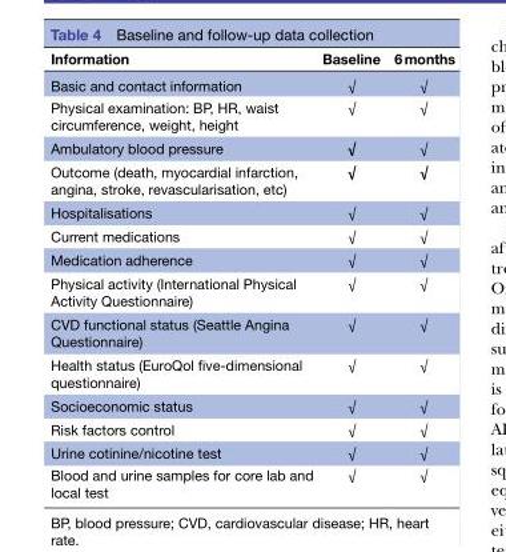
<table><thead><tr><td>Information</td><td>Baseline</td><td>6 months</td></tr></thead><tbody><tr><td>Basic and contact information</td><td>√</td><td>√</td></tr><tr><td>Physical examination: BP, HR, waist circumference, weight, height</td><td>√</td><td>√</td></tr><tr><td>Ambulatory blood pressure</td><td>√</td><td>√</td></tr><tr><td>Outcome (death, myocardial infarction, angina, stroke, revascularisation, etc)</td><td>√</td><td>√</td></tr><tr><td>Hospitalisations</td><td>√</td><td>√</td></tr><tr><td>Current medications</td><td>√</td><td>√</td></tr><tr><td>Medication adherence</td><td>√</td><td>√</td></tr><tr><td>Physical activity (International Physical Activity Questionnaire)</td><td>√</td><td>√</td></tr><tr><td>CVD functional status (Seattle Angina Questionnaire)</td><td>√</td><td>√</td></tr><tr><td>Health status (EuroQol five-dimensional questionnaire)</td><td>√</td><td>√</td></tr><tr><td>Socioeconomic status</td><td>√</td><td>√</td></tr><tr><td>Risk factors control</td><td>√</td><td>√</td></tr><tr><td>Urine cotinine/nicotine test</td><td>√</td><td>√</td></tr><tr><td>Blood and urine samples for core lab and local test</td><td>√</td><td>√</td></tr></tbody></table>